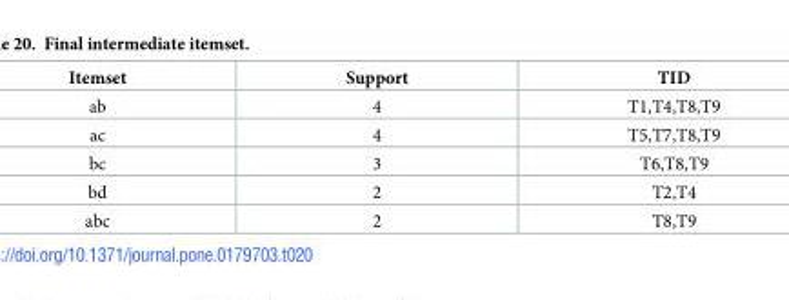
<table><thead><tr><td>Itemset</td><td>Support</td><td>TID</td></tr></thead><tbody><tr><td>ab</td><td>4</td><td>T1,T4,T8,T9</td></tr><tr><td>ac</td><td>4</td><td>T5,T7,T8,T9</td></tr><tr><td>bc</td><td>3</td><td>T6,T8,T9</td></tr><tr><td>bd</td><td>2</td><td>T2,T4</td></tr><tr><td>abc</td><td>2</td><td>T8,T9</td></tr></tbody></table>